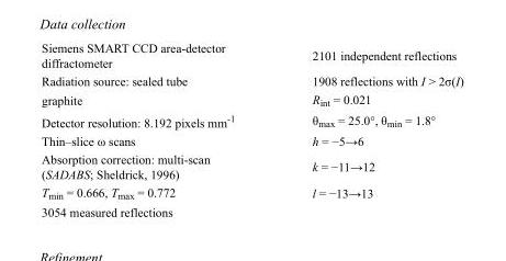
<table><tbody><tr><td>Siemens SMART CCD area-detector diffractometer</td><td>2101 independent reflections</td></tr><tr><td>Radiation source: sealed tube</td><td>1908 reflections with I &gt; 2σ(I)</td></tr><tr><td>graphite</td><td>R<sub>int</sub> = 0.021</td></tr><tr><td>Detector resolution: 8.192 pixels mm<sup>-1</sup></td><td>θ<sub>max</sub> = 25.0°, θ<sub>min</sub> = 1.8°</td></tr><tr><td>Thin–slice ω scans</td><td>h = −5→6</td></tr><tr><td>Absorption correction: multi-scan (SADABS; Sheldrick, 1996)</td><td>k = −11→12</td></tr><tr><td>T<sub>min</sub> = 0.666, T<sub>max</sub> = 0.772</td><td>l = −13→13</td></tr><tr><td>3054 measured reflections</td><td></td></tr></tbody></table>